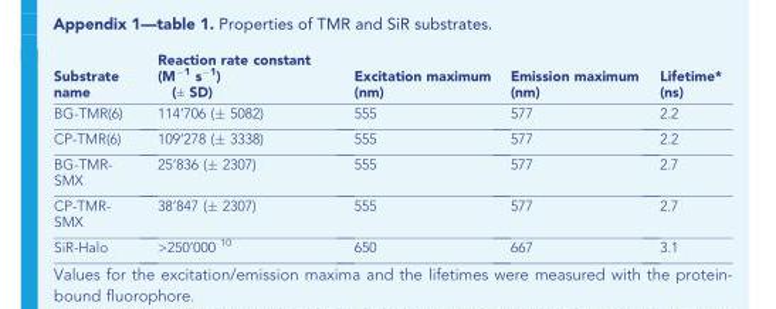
<table><thead><tr><td>Substrate name</td><td>Reaction rate constant (M<sup>−1</sup> s<sup>−1</sup>) (± SD)</td><td>Excitation maximum (nm)</td><td>Emission maximum (nm)</td><td>Lifetime* (ns)</td></tr></thead><tbody><tr><td>BG-TMR(6)</td><td>114’706 (± 5082)</td><td>555</td><td>577</td><td>2.2</td></tr><tr><td>CP-TMR(6)</td><td>109’278 (± 3338)</td><td>555</td><td>577</td><td>2.2</td></tr><tr><td>BG-TMR- SMX</td><td>25’836 (± 2307)</td><td>555</td><td>577</td><td>2.7</td></tr><tr><td>CP-TMR- SMX</td><td>38’847 (± 2307)</td><td>555</td><td>577</td><td>2.7</td></tr><tr><td>SiR-Halo</td><td>&gt;250’000 <sup>10</sup></td><td>650</td><td>667</td><td>3.1</td></tr></tbody></table>